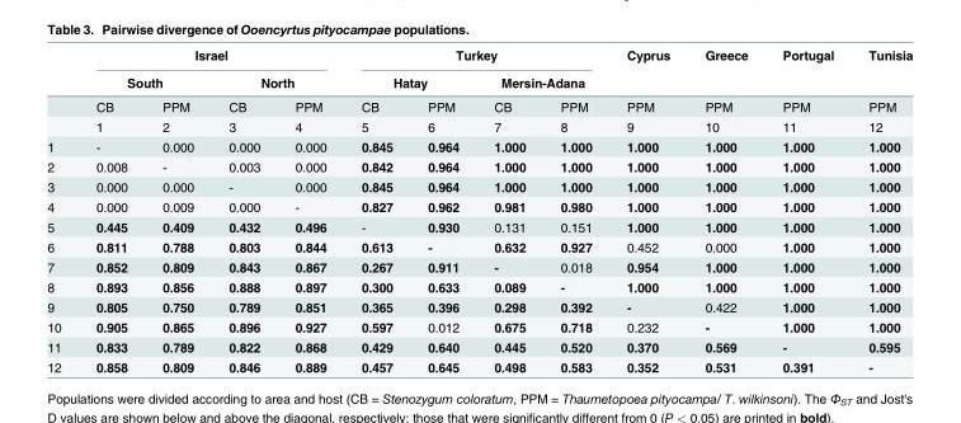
<table><thead><tr><td rowspan="3"></td><td colspan="4">Israel</td><td colspan="4">Turkey</td><td rowspan="3">Cyprus PPM</td><td rowspan="3">Greece PPM</td><td rowspan="3">Portugal PPM</td><td rowspan="3">Tunisia PPM</td></tr><tr><td colspan="2">South</td><td colspan="2">North</td><td colspan="2">Hatay</td><td colspan="2">Mersin-Adana</td></tr><tr><td>CB</td><td>PPM</td><td>CB</td><td>PPM</td><td>CB</td><td>PPM</td><td>CB</td><td>PPM</td></tr></thead><tbody><tr><td></td><td>1</td><td>2</td><td>3</td><td>4</td><td>5</td><td>6</td><td>7</td><td>8</td><td>9</td><td>10</td><td>11</td><td>12</td></tr><tr><td>1</td><td>-</td><td>0.000</td><td>0.000</td><td>0.000</td><td>0.845</td><td>0.964</td><td>1.000</td><td>1.000</td><td>1.000</td><td>1.000</td><td>1.000</td><td>1.000</td></tr><tr><td>2</td><td>0.008</td><td>-</td><td>0.003</td><td>0.000</td><td>0.842</td><td>0.964</td><td>1.000</td><td>1.000</td><td>1.000</td><td>1.000</td><td>1.000</td><td>1.000</td></tr><tr><td>3</td><td>0.000</td><td>0.000</td><td>-</td><td>0.000</td><td>0.845</td><td>0.964</td><td>1.000</td><td>1.000</td><td>1.000</td><td>1.000</td><td>1.000</td><td>1.000</td></tr><tr><td>4</td><td>0.000</td><td>0.009</td><td>0.000</td><td>-</td><td>0.827</td><td>0.962</td><td>0.981</td><td>0.980</td><td>1.000</td><td>1.000</td><td>1.000</td><td>1.000</td></tr><tr><td>5</td><td>0.445</td><td>0.409</td><td>0.432</td><td>0.496</td><td>-</td><td>0.930</td><td>0.131</td><td>0.151</td><td>1.000</td><td>1.000</td><td>1.000</td><td>1.000</td></tr><tr><td>6</td><td>0.811</td><td>0.788</td><td>0.803</td><td>0.844</td><td>0.613</td><td>-</td><td>0.632</td><td>0.927</td><td>0.452</td><td>0.000</td><td>1.000</td><td>1.000</td></tr><tr><td>7</td><td>0.852</td><td>0.809</td><td>0.843</td><td>0.867</td><td>0.267</td><td>0.911</td><td>-</td><td>0.018</td><td>0.954</td><td>1.000</td><td>1.000</td><td>1.000</td></tr><tr><td>8</td><td>0.893</td><td>0.856</td><td>0.888</td><td>0.897</td><td>0.300</td><td>0.633</td><td>0.089</td><td>-</td><td>1.000</td><td>1.000</td><td>1.000</td><td>1.000</td></tr><tr><td>9</td><td>0.805</td><td>0.750</td><td>0.789</td><td>0.851</td><td>0.365</td><td>0.396</td><td>0.298</td><td>0.392</td><td>-</td><td>0.422</td><td>1.000</td><td>1.000</td></tr><tr><td>10</td><td>0.905</td><td>0.865</td><td>0.896</td><td>0.927</td><td>0.597</td><td>0.012</td><td>0.675</td><td>0.718</td><td>0.232</td><td>-</td><td>1.000</td><td>1.000</td></tr><tr><td>11</td><td>0.833</td><td>0.789</td><td>0.822</td><td>0.868</td><td>0.429</td><td>0.640</td><td>0.445</td><td>0.520</td><td>0.370</td><td>0.569</td><td>-</td><td>0.595</td></tr><tr><td>12</td><td>0.858</td><td>0.809</td><td>0.846</td><td>0.889</td><td>0.457</td><td>0.645</td><td>0.498</td><td>0.583</td><td>0.352</td><td>0.531</td><td>0.391</td><td>-</td></tr></tbody></table>